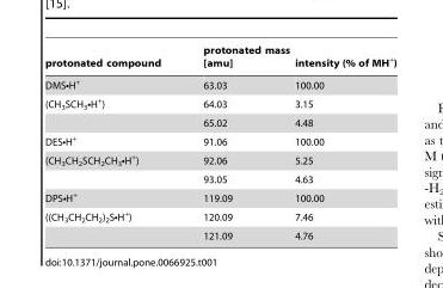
<table><thead><tr><td>protonated compound</td><td>protonated mass [amu]</td><td>intensity (% of MH<sup>+</sup>)</td></tr></thead><tbody><tr><td>DMS•H<sup>+</sup></td><td>63.03</td><td>100.00</td></tr><tr><td rowspan="2">(CH<sub>3</sub>SCH<sub>3</sub>•H<sup>+</sup>)</td><td>64.03</td><td>3.15</td></tr><tr><td>65.02</td><td>4.48</td></tr><tr><td>DES•H<sup>+</sup></td><td>91.06</td><td>100.00</td></tr><tr><td rowspan="2">(CH<sub>3</sub>CH<sub>2</sub>SCH<sub>2</sub>CH<sub>3</sub>•H<sup>+</sup>)</td><td>92.06</td><td>5.25</td></tr><tr><td>93.05</td><td>4.63</td></tr><tr><td>DPS•H<sup>+</sup></td><td>119.09</td><td>100.00</td></tr><tr><td rowspan="2">((CH<sub>3</sub>CH<sub>2</sub>CH<sub>2</sub>)<sub>2</sub>S•H<sup>+</sup>)</td><td>120.09</td><td>7.46</td></tr><tr><td>121.09</td><td>4.76</td></tr></tbody></table>